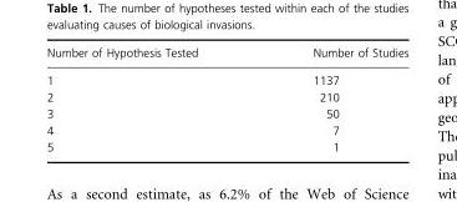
<table><thead><tr><td>Number of Hypothesis Tested</td><td>Number of Studies</td></tr></thead><tbody><tr><td>1</td><td>1137</td></tr><tr><td>2</td><td>210</td></tr><tr><td>3</td><td>50</td></tr><tr><td>4</td><td>7</td></tr><tr><td>5</td><td>1</td></tr></tbody></table>